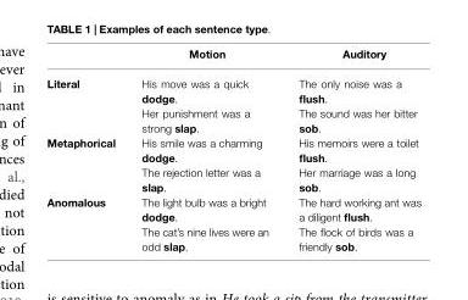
<table><thead><tr><td></td><td>Motion</td><td>Auditory</td></tr></thead><tbody><tr><td rowspan="2">Literal</td><td>His move was a quick dodge.</td><td>The only noise was a flush.</td></tr><tr><td>Her punishment was a strong slap.</td><td>The sound was her bitter sob.</td></tr><tr><td rowspan="2">Metaphorical</td><td>His smile was a charming dodge.</td><td>His memoirs were a toilet flush.</td></tr><tr><td>The rejection letter was a slap.</td><td>Her marriage was a long sob.</td></tr><tr><td rowspan="2">Anomalous</td><td>The light bulb was a bright dodge.</td><td>The hard working ant was a diligent flush.</td></tr><tr><td>The cat’s nine lives were an odd slap.</td><td>The flock of birds was a friendly sob.</td></tr></tbody></table>